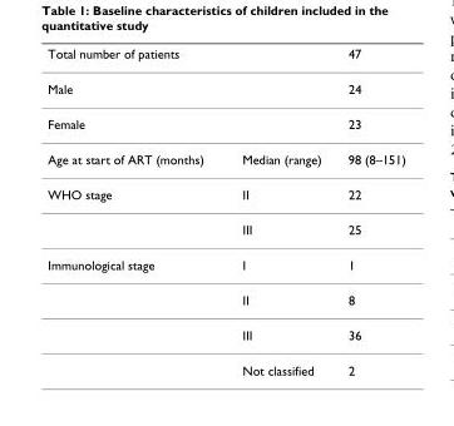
<table><thead><tr><td>Total number of patients</td><td></td><td>47</td></tr></thead><tbody><tr><td>Male</td><td></td><td>24</td></tr><tr><td>Female</td><td></td><td>23</td></tr><tr><td>Age at start of ART (months)</td><td>Median (range)</td><td>98 (8–151)</td></tr><tr><td rowspan="2">WHO stage</td><td>II</td><td>22</td></tr><tr><td>III</td><td>25</td></tr><tr><td rowspan="4">Immunological stage</td><td>I</td><td>1</td></tr><tr><td>II</td><td>8</td></tr><tr><td>III</td><td>36</td></tr><tr><td>Not classified</td><td>2</td></tr></tbody></table>